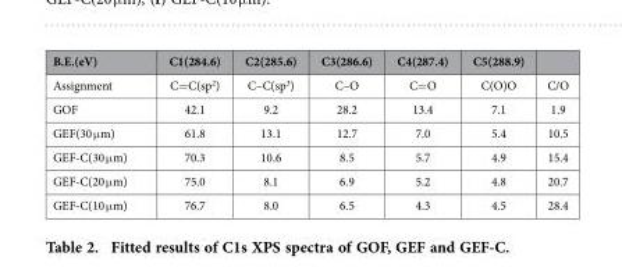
<table><thead><tr><td>B.E.(eV)</td><td>C1(284.6)</td><td>C2(285.6)</td><td>C3(286.6)</td><td>C4(287.4)</td><td>C5(288.9)</td><td></td></tr></thead><tbody><tr><td>Assignment</td><td>C=C(sp<sup>2</sup>)</td><td>C–C(sp<sup>3</sup>)</td><td>C–O</td><td>C=O</td><td>C(O)O</td><td>C/O</td></tr><tr><td>GOF</td><td>42.1</td><td>9.2</td><td>28.2</td><td>13.4</td><td>7.1</td><td>1.9</td></tr><tr><td>GEF(30 μ m)</td><td>61.8</td><td>13.1</td><td>12.7</td><td>7.0</td><td>5.4</td><td>10.5</td></tr><tr><td>GEF-C(30 μ m)</td><td>70.3</td><td>10.6</td><td>8.5</td><td>5.7</td><td>4.9</td><td>15.4</td></tr><tr><td>GEF-C(20 μ m)</td><td>75.0</td><td>8.1</td><td>6.9</td><td>5.2</td><td>4.8</td><td>20.7</td></tr><tr><td>GEF-C(10 μ m)</td><td>76.7</td><td>8.0</td><td>6.5</td><td>4.3</td><td>4.5</td><td>28.4</td></tr></tbody></table>